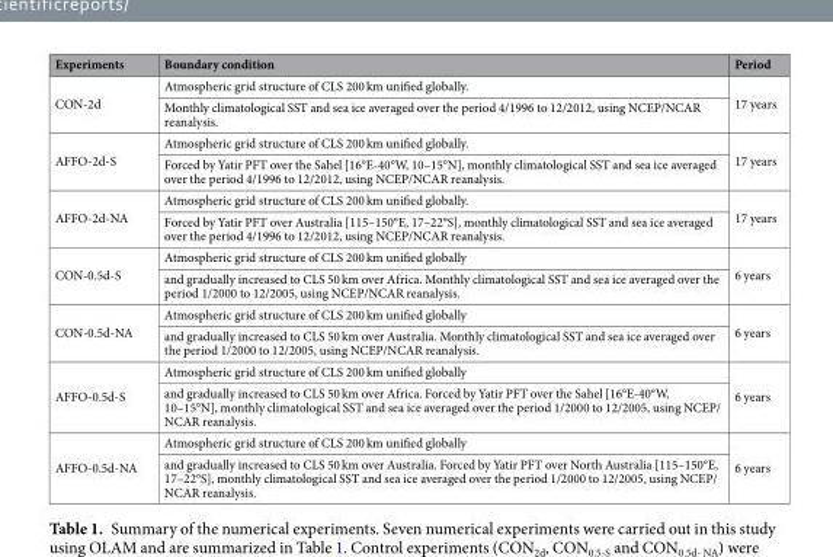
<table><thead><tr><td>Experiments</td><td>Boundary condition</td><td>Period</td></tr></thead><tbody><tr><td rowspan="2">CON-2d</td><td>Atmospheric grid structure of CLS 200 km unified globally.</td><td rowspan="2">17 years</td></tr><tr><td>Monthly climatological SST and sea ice averaged over the period 4/1996 to 12/2012, using NCEP/NCAR reanalysis.</td></tr><tr><td rowspan="2">AFFO-2d-S</td><td>Atmospheric grid structure of CLS 200 km unified globally.</td><td rowspan="2">17 years</td></tr><tr><td>Forced by Yatir PFT over the Sahel [16°E-40°W, 10–15°N], monthly climatological SST and sea ice averaged over the period 4/1996 to 12/2012, using NCEP/NCAR reanalysis.</td></tr><tr><td rowspan="2">AFFO-2d-NA</td><td>Atmospheric grid structure of CLS 200 km unified globally.</td><td rowspan="2">17 years</td></tr><tr><td>Forced by Yatir PFT over Australia [115–150°E, 17–22°S], monthly climatological SST and sea ice averaged over the period 4/1996 to 12/2012, using NCEP/NCAR reanalysis.</td></tr><tr><td rowspan="2">CON-0.5d-S</td><td>Atmospheric grid structure of CLS 200 km unified globally</td><td rowspan="2">6 years</td></tr><tr><td>and gradually increased to CLS 50 km over Africa. Monthly climatological SST and sea ice averaged over the period 1/2000 to 12/2005, using NCEP/NCAR reanalysis.</td></tr><tr><td rowspan="2">CON-0.5d-NA</td><td>Atmospheric grid structure of CLS 200 km unified globally</td><td rowspan="2">6 years</td></tr><tr><td>and gradually increased to CLS 50 km over Australia. Monthly climatological SST and sea ice averaged over the period 1/2000 to 12/2005, using NCEP/NCAR reanalysis.</td></tr><tr><td rowspan="2">AFFO-0.5d-S</td><td>Atmospheric grid structure of CLS 200 km unified globally</td><td rowspan="2">6 years</td></tr><tr><td>and gradually increased to CLS 50 km over Africa. Forced by Yatir PFT over the Sahel [16°E-40°W, 10–15°N], monthly climatological SST and sea ice averaged over the period 1/2000 to 12/2005, using NCEP/ NCAR reanalysis.</td></tr><tr><td rowspan="2">AFFO-0.5d-NA</td><td>Atmospheric grid structure of CLS 200 km unified globally</td><td rowspan="2">6 years</td></tr><tr><td>and gradually increased to CLS 50 km over Australia. Forced by Yatir PFT over North Australia [115–150°E, 17–22°S], monthly climatological SST and sea ice averaged over the period 1/2000 to 12/2005, using NCEP/ NCAR reanalysis.</td></tr></tbody></table>